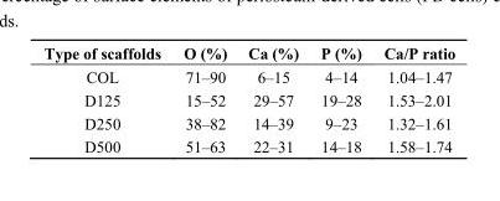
<table><thead><tr><td>Type of scaffolds</td><td>O (%)</td><td>Ca (%)</td><td>P (%)</td><td>Ca/P ratio</td></tr></thead><tbody><tr><td>COL</td><td>71–90</td><td>6–15</td><td>4–14</td><td>1.04–1.47</td></tr><tr><td>D125</td><td>15–52</td><td>29–57</td><td>19–28</td><td>1.53–2.01</td></tr><tr><td>D250</td><td>38–82</td><td>14–39</td><td>9–23</td><td>1.32–1.61</td></tr><tr><td>D500</td><td>51–63</td><td>22–31</td><td>14–18</td><td>1.58–1.74</td></tr></tbody></table>